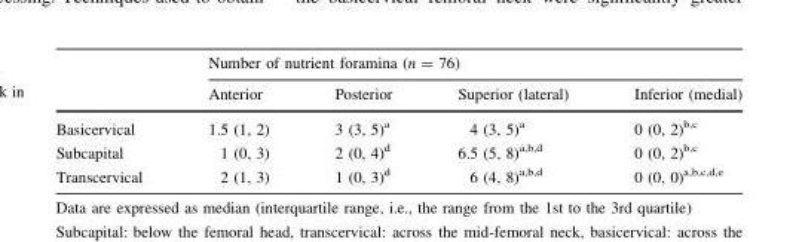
<table><thead><tr><td rowspan="2"></td><td colspan="4">Number of nutrient foramina (n = 76)</td></tr><tr><td>Anterior</td><td>Posterior</td><td>Superior (lateral)</td><td>Inferior (medial)</td></tr></thead><tbody><tr><td>Basicervical</td><td>1.5 (1, 2)</td><td>3 (3, 5)<sup>a</sup></td><td>4 (3, 5)<sup>a</sup></td><td>0 (0, 2)<sup>b,c</sup></td></tr><tr><td>Subcapital</td><td>1 (0, 3)</td><td>2 (0, 4)<sup>d</sup></td><td>6.5 (5, 8)<sup>a,b,d</sup></td><td>0 (0, 2)<sup>b,c</sup></td></tr><tr><td>Transcervical</td><td>2 (1, 3)</td><td>1 (0, 3)<sup>d</sup></td><td>6 (4, 8)<sup>a,b,d</sup></td><td>0 (0, 0)<sup>a,b,c,d,e</sup></td></tr></tbody></table>